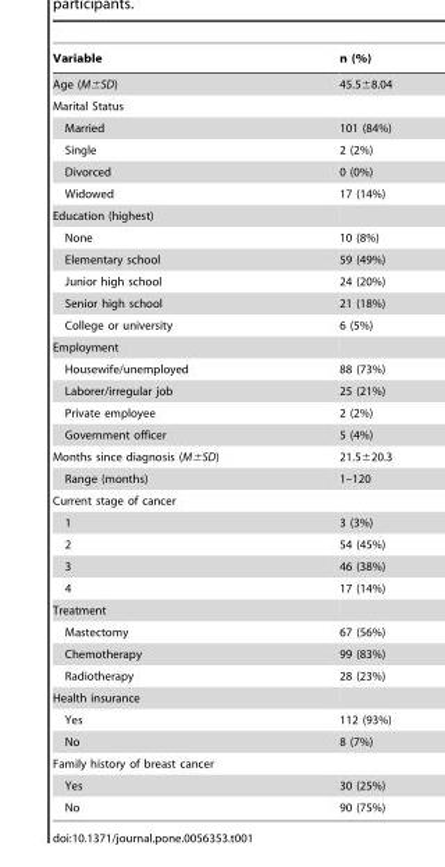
<table><thead><tr><td>Variable</td><td>n (%)</td></tr></thead><tbody><tr><td>Age (M±SD)</td><td>45.5±8.04</td></tr><tr><td colspan="2">Marital Status</td></tr><tr><td>Married</td><td>101 (84%)</td></tr><tr><td>Single</td><td>2 (2%)</td></tr><tr><td>Divorced</td><td>0 (0%)</td></tr><tr><td>Widowed</td><td>17 (14%)</td></tr><tr><td colspan="2">Education (highest)</td></tr><tr><td>None</td><td>10 (8%)</td></tr><tr><td>Elementary school</td><td>59 (49%)</td></tr><tr><td>Junior high school</td><td>24 (20%)</td></tr><tr><td>Senior high school</td><td>21 (18%)</td></tr><tr><td>College or university</td><td>6 (5%)</td></tr><tr><td colspan="2">Employment</td></tr><tr><td>Housewife/unemployed</td><td>88 (73%)</td></tr><tr><td>Laborer/irregular job</td><td>25 (21%)</td></tr><tr><td>Private employee</td><td>2 (2%)</td></tr><tr><td>Government officer</td><td>5 (4%)</td></tr><tr><td>Months since diagnosis (M±SD)</td><td>21.5±20.3</td></tr><tr><td>Range (months)</td><td>1–120</td></tr><tr><td colspan="2">Current stage of cancer</td></tr><tr><td>1</td><td>3 (3%)</td></tr><tr><td>2</td><td>54 (45%)</td></tr><tr><td>3</td><td>46 (38%)</td></tr><tr><td>4</td><td>17 (14%)</td></tr><tr><td colspan="2">Treatment</td></tr><tr><td>Mastectomy</td><td>67 (56%)</td></tr><tr><td>Chemotherapy</td><td>99 (83%)</td></tr><tr><td>Radiotherapy</td><td>28 (23%)</td></tr><tr><td colspan="2">Health insurance</td></tr><tr><td>Yes</td><td>112 (93%)</td></tr><tr><td>No</td><td>8 (7%)</td></tr><tr><td colspan="2">Family history of breast cancer</td></tr><tr><td>Yes</td><td>30 (25%)</td></tr><tr><td>No</td><td>90 (75%)</td></tr></tbody></table>